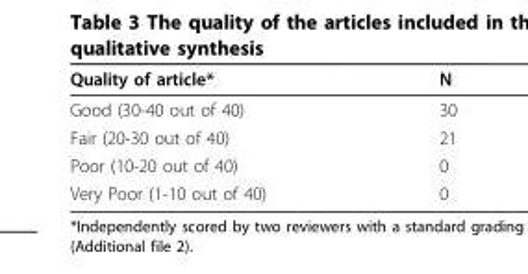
<table><thead><tr><td>Quality of article*</td><td>N</td></tr></thead><tbody><tr><td>Good (30-40 out of 40)</td><td>30</td></tr><tr><td>Fair (20-30 out of 40)</td><td>21</td></tr><tr><td>Poor (10-20 out of 40)</td><td>0</td></tr><tr><td>Very Poor (1-10 out of 40)</td><td>0</td></tr></tbody></table>